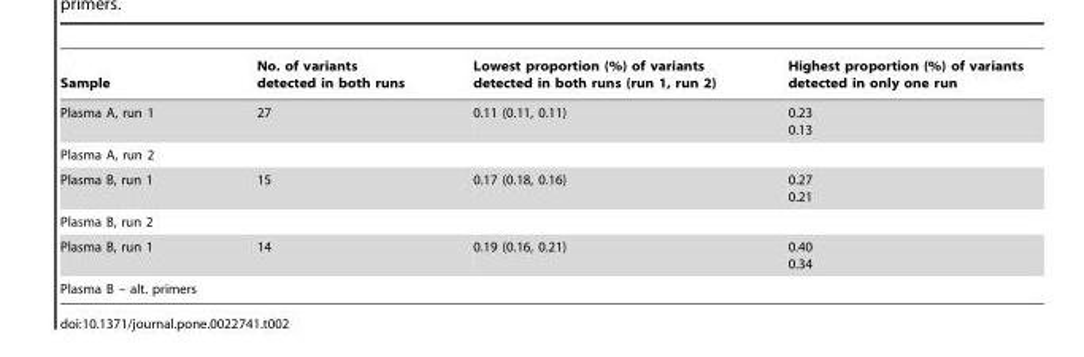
<table><thead><tr><td>Sample</td><td>No. of variants detected in both runs</td><td>Lowest proportion (%) of variants detected in both runs (run 1, run 2)</td><td>Highest proportion (%) of variants detected in only one run</td></tr></thead><tbody><tr><td>Plasma A, run 1</td><td>27</td><td>0.11 (0.11, 0.11)</td><td>0.23 0.13</td></tr><tr><td colspan="4">Plasma A, run 2</td></tr><tr><td>Plasma B, run 1</td><td>15</td><td>0.17 (0.18, 0.16)</td><td>0.27 0.21</td></tr><tr><td colspan="4">Plasma B, run 2</td></tr><tr><td>Plasma B, run 1</td><td>14</td><td>0.19 (0.16, 0.21)</td><td>0.40 0.34</td></tr><tr><td>Plasma B – alt. primers</td><td></td><td></td><td></td></tr></tbody></table>